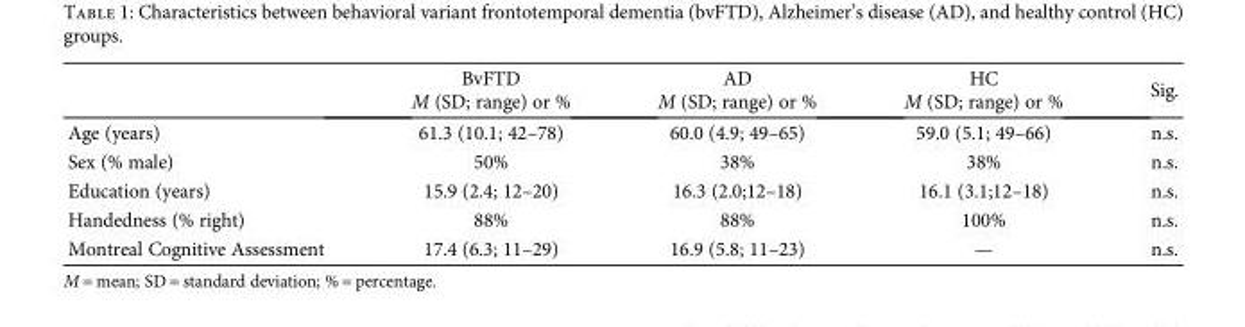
<table><thead><tr><td></td><td>BvFTD M (SD; range) or %</td><td>AD M (SD; range) or %</td><td>HC M (SD; range) or %</td><td>Sig.</td></tr></thead><tbody><tr><td>Age (years)</td><td>61.3 (10.1; 42–78)</td><td>60.0 (4.9; 49–65)</td><td>59.0 (5.1; 49–66)</td><td>n.s.</td></tr><tr><td>Sex (% male)</td><td>50%</td><td>38%</td><td>38%</td><td>n.s.</td></tr><tr><td>Education (years)</td><td>15.9 (2.4; 12–20)</td><td>16.3 (2.0;12–18)</td><td>16.1 (3.1;12–18)</td><td>n.s.</td></tr><tr><td>Handedness (% right)</td><td>88%</td><td>88%</td><td>100%</td><td>n.s.</td></tr><tr><td>Montreal Cognitive Assessment</td><td>17.4 (6.3; 11–29)</td><td>16.9 (5.8; 11–23)</td><td>—</td><td>n.s.</td></tr></tbody></table>